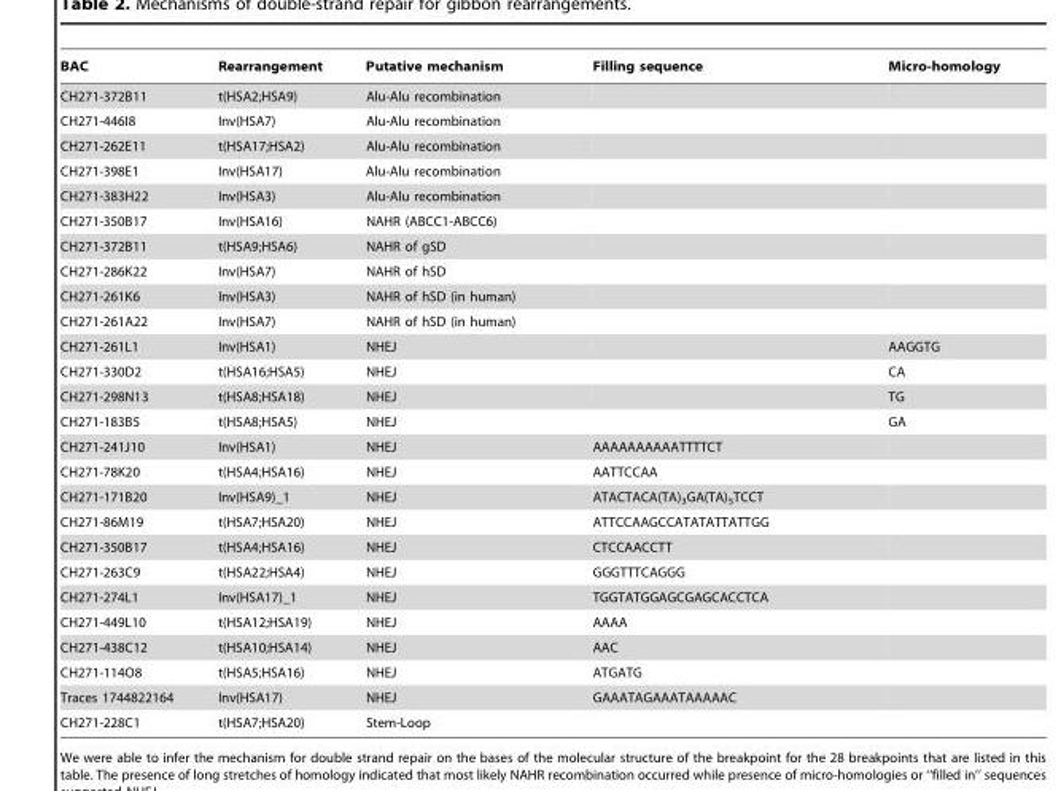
<table><thead><tr><td>BAC</td><td>Rearrangement</td><td>Putative mechanism</td><td>Filling sequence</td><td>Micro-homology</td></tr></thead><tbody><tr><td>CH271-372B11</td><td>t(HSA2;HSA9)</td><td>Alu-Alu recombination</td><td></td><td></td></tr><tr><td>CH271-446I8</td><td>Inv(HSA7)</td><td>Alu-Alu recombination</td><td></td><td></td></tr><tr><td>CH271-262E11</td><td>t(HSA17;HSA2)</td><td>Alu-Alu recombination</td><td></td><td></td></tr><tr><td>CH271-398E1</td><td>Inv(HSA17)</td><td>Alu-Alu recombination</td><td></td><td></td></tr><tr><td>CH271-383H22</td><td>Inv(HSA3)</td><td>Alu-Alu recombination</td><td></td><td></td></tr><tr><td>CH271-350B17</td><td>Inv(HSA16)</td><td>NAHR (ABCC1-ABCC6)</td><td></td><td></td></tr><tr><td>CH271-372B11</td><td>t(HSA9;HSA6)</td><td>NAHR of gSD</td><td></td><td></td></tr><tr><td>CH271-286K22</td><td>Inv(HSA7)</td><td>NAHR of hSD</td><td></td><td></td></tr><tr><td>CH271-261K6</td><td>Inv(HSA3)</td><td>NAHR of hSD (in human)</td><td></td><td></td></tr><tr><td>CH271-261A22</td><td>Inv(HSA7)</td><td>NAHR of hSD (in human)</td><td></td><td></td></tr><tr><td>CH271-261L1</td><td>Inv(HSA1)</td><td>NHEJ</td><td></td><td>AAGGTG</td></tr><tr><td>CH271-330D2</td><td>t(HSA16;HSA5)</td><td>NHEJ</td><td></td><td>CA</td></tr><tr><td>CH271-298N13</td><td>t(HSA8;HSA18)</td><td>NHEJ</td><td></td><td>TG</td></tr><tr><td>CH271-183B5</td><td>t(HSA8;HSA5)</td><td>NHEJ</td><td></td><td>GA</td></tr><tr><td>CH271-241J10</td><td>Inv(HSA1)</td><td>NHEJ</td><td>AAAAAAAAAATTTTCT</td><td></td></tr><tr><td>CH271-78K20</td><td>t(HSA4;HSA16)</td><td>NHEJ</td><td>AATTCCAA</td><td></td></tr><tr><td>CH271-171B20</td><td>Inv(HSA9)_1</td><td>NHEJ</td><td>ATACTACA(TA)<sub>3</sub>GA(TA)<sub>5</sub>TCCT</td><td></td></tr><tr><td>CH271-86M19</td><td>t(HSA7;HSA20)</td><td>NHEJ</td><td>ATTCCAAGCCATATATTATTGG</td><td></td></tr><tr><td>CH271-350B17</td><td>t(HSA4;HSA16)</td><td>NHEJ</td><td>CTCCAACCTT</td><td></td></tr><tr><td>CH271-263C9</td><td>t(HSA22;HSA4)</td><td>NHEJ</td><td>GGGTTTCAGGG</td><td></td></tr><tr><td>CH271-274L1</td><td>Inv(HSA17)_1</td><td>NHEJ</td><td>TGGTATGGAGCGAGCACCTCA</td><td></td></tr><tr><td>CH271-449L10</td><td>t(HSA12;HSA19)</td><td>NHEJ</td><td>AAAA</td><td></td></tr><tr><td>CH271-438C12</td><td>t(HSA10;HSA14)</td><td>NHEJ</td><td>AAC</td><td></td></tr><tr><td>CH271-114O8</td><td>t(HSA5;HSA16)</td><td>NHEJ</td><td>ATGATG</td><td></td></tr><tr><td>Traces 1744822164</td><td>Inv(HSA17)</td><td>NHEJ</td><td>GAAATAGAAATAAAAAC</td><td></td></tr><tr><td>CH271-228C1</td><td>t(HSA7;HSA20)</td><td>Stem-Loop</td><td></td><td></td></tr></tbody></table>